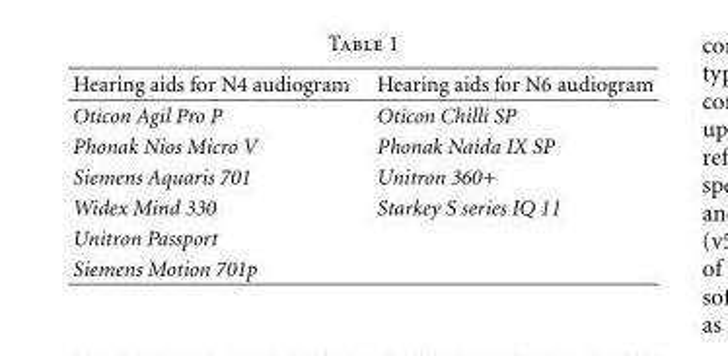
<table><thead><tr><td>Hearing aids for N4 audiogram</td><td>Hearing aids for N6 audiogram</td></tr></thead><tbody><tr><td>Oticon Agil Pro P</td><td>Oticon Chilli SP</td></tr><tr><td>Phonak Nios Micro V</td><td>Phonak Naida IX SP</td></tr><tr><td>Siemens Aquaris 701</td><td>Unitron 360+</td></tr><tr><td>Widex Mind 330</td><td>Starkey S series IQ 11</td></tr><tr><td colspan="2">Unitron Passport</td></tr><tr><td>Siemens Motion 701p</td><td></td></tr></tbody></table>